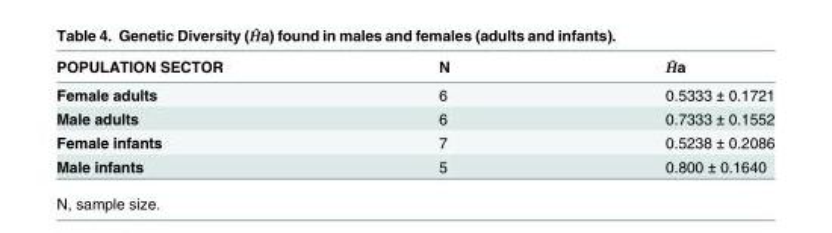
<table><thead><tr><td>POPULATION SECTOR</td><td>N</td><td>Ĥa</td></tr></thead><tbody><tr><td>Female adults</td><td>6</td><td>0.5333 ± 0.1721</td></tr><tr><td>Male adults</td><td>6</td><td>0.7333 ± 0.1552</td></tr><tr><td>Female infants</td><td>7</td><td>0.5238 ± 0.2086</td></tr><tr><td>Male infants</td><td>5</td><td>0.800 ± 0.1640</td></tr></tbody></table>